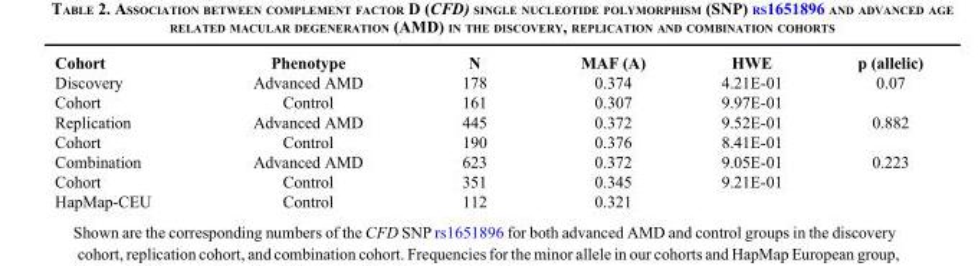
<table><thead><tr><td>Cohort</td><td>Phenotype</td><td>N</td><td>MAF (A)</td><td>HWE</td><td>p (allelic)</td></tr></thead><tbody><tr><td>Discovery</td><td>Advanced AMD</td><td>178</td><td>0.374</td><td>4.21E-01</td><td>0.07</td></tr><tr><td>Cohort</td><td>Control</td><td>161</td><td>0.307</td><td>9.97E-01</td><td></td></tr><tr><td>Replication</td><td>Advanced AMD</td><td>445</td><td>0.372</td><td>9.52E-01</td><td>0.882</td></tr><tr><td>Cohort</td><td>Control</td><td>190</td><td>0.376</td><td>8.41E-01</td><td></td></tr><tr><td>Combination</td><td>Advanced AMD</td><td>623</td><td>0.372</td><td>9.05E-01</td><td>0.223</td></tr><tr><td>Cohort</td><td>Control</td><td>351</td><td>0.345</td><td>9.21E-01</td><td></td></tr><tr><td>HapMap-CEU</td><td>Control</td><td>112</td><td>0.321</td><td></td><td></td></tr></tbody></table>